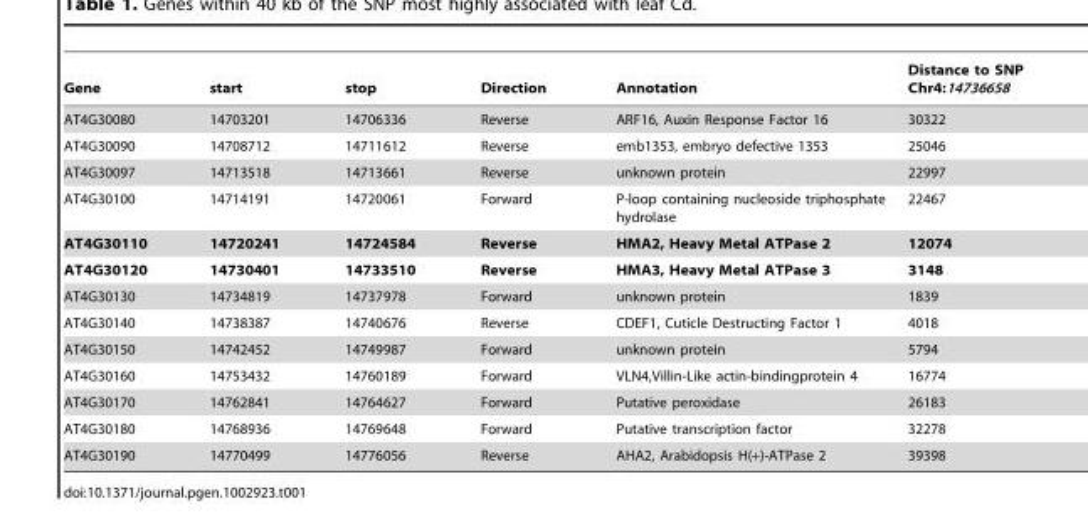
<table><thead><tr><td>Gene</td><td>start</td><td>stop</td><td>Direction</td><td>Annotation</td><td>Distance to SNP Chr4:14736658</td></tr></thead><tbody><tr><td>AT4G30080</td><td>14703201</td><td>14706336</td><td>Reverse</td><td>ARF16, Auxin Response Factor 16</td><td>30322</td></tr><tr><td>AT4G30090</td><td>14708712</td><td>14711612</td><td>Reverse</td><td>emb1353, embryo defective 1353</td><td>25046</td></tr><tr><td>AT4G30097</td><td>14713518</td><td>14713661</td><td>Reverse</td><td>unknown protein</td><td>22997</td></tr><tr><td>AT4G30100</td><td>14714191</td><td>14720061</td><td>Forward</td><td>P-loop containing nucleoside triphosphate hydrolase</td><td>22467</td></tr><tr><td>AT4G30110</td><td>14720241</td><td>14724584</td><td>Reverse</td><td>HMA2, Heavy Metal ATPase 2</td><td>12074</td></tr><tr><td>AT4G30120</td><td>14730401</td><td>14733510</td><td>Reverse</td><td>HMA3, Heavy Metal ATPase 3</td><td>3148</td></tr><tr><td>AT4G30130</td><td>14734819</td><td>14737978</td><td>Forward</td><td>unknown protein</td><td>1839</td></tr><tr><td>AT4G30140</td><td>14738387</td><td>14740676</td><td>Reverse</td><td>CDEF1, Cuticle Destructing Factor 1</td><td>4018</td></tr><tr><td>AT4G30150</td><td>14742452</td><td>14749987</td><td>Forward</td><td>unknown protein</td><td>5794</td></tr><tr><td>AT4G30160</td><td>14753432</td><td>14760189</td><td>Forward</td><td>VLN4,Villin-Like actin-bindingprotein 4</td><td>16774</td></tr><tr><td>AT4G30170</td><td>14762841</td><td>14764627</td><td>Forward</td><td>Putative peroxidase</td><td>26183</td></tr><tr><td>AT4G30180</td><td>14768936</td><td>14769648</td><td>Forward</td><td>Putative transcription factor</td><td>32278</td></tr><tr><td>AT4G30190</td><td>14770499</td><td>14776056</td><td>Reverse</td><td>AHA2, Arabidopsis H(+)-ATPase 2</td><td>39398</td></tr></tbody></table>